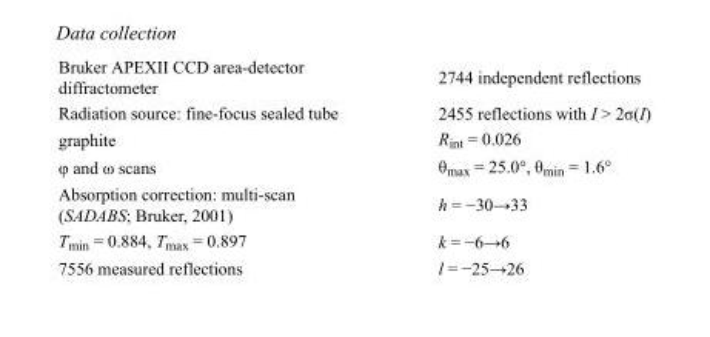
<table><tbody><tr><td>Bruker APEXII CCD area-detector diffractometer</td><td>2744 independent reflections</td></tr><tr><td>Radiation source: fine-focus sealed tube</td><td>2455 reflections with I &gt; 2σ(I)</td></tr><tr><td>graphite</td><td>R<sub>int</sub> = 0.026</td></tr><tr><td>φ and ω scans</td><td>θ<sub>max</sub> = 25.0°, θ<sub>min</sub> = 1.6°</td></tr><tr><td>Absorption correction: multi-scan (SADABS; Bruker, 2001)</td><td>h = −30→33</td></tr><tr><td>T<sub>min</sub> = 0.884, T<sub>max</sub> = 0.897</td><td>k = −6→6</td></tr><tr><td>7556 measured reflections</td><td>l = −25→26</td></tr></tbody></table>